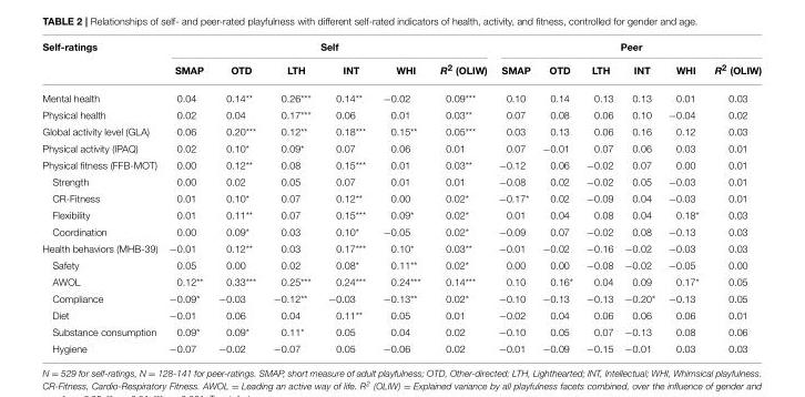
<table><thead><tr><td rowspan="2">Self-ratings</td><td colspan="6">Self</td><td colspan="6">Peer</td></tr><tr><td>SMAP</td><td>OTD</td><td>LTH</td><td>INT</td><td>WHI</td><td>R<sup>2</sup> (OLIW)</td><td>SMAP</td><td>OTD</td><td>LTH</td><td>INT</td><td>WHI</td><td>R<sup>2</sup> (OLIW)</td></tr></thead><tbody><tr><td>Mental health</td><td>0.04</td><td>0.14**</td><td>0.26***</td><td>0.14**</td><td>−0.02</td><td>0.09***</td><td>0.10</td><td>0.14</td><td>0.13</td><td>0.13</td><td>0.01</td><td>0.03</td></tr><tr><td>Physical health</td><td>0.02</td><td>0.04</td><td>0.17***</td><td>0.06</td><td>0.01</td><td>0.03**</td><td>0.07</td><td>0.08</td><td>0.06</td><td>0.10</td><td>−0.04</td><td>0.02</td></tr><tr><td>Global activity level (GLA)</td><td>0.06</td><td>0.20***</td><td>0.12**</td><td>0.18***</td><td>0.15**</td><td>0.05***</td><td>0.03</td><td>0.13</td><td>0.06</td><td>0.16</td><td>0.12</td><td>0.03</td></tr><tr><td>Physical activity (IPAQ)</td><td>0.02</td><td>0.10*</td><td>0.09*</td><td>0.07</td><td>0.06</td><td>0.01</td><td>0.07</td><td>−0.01</td><td>0.07</td><td>0.06</td><td>0.03</td><td>0.01</td></tr><tr><td>Physical fitness (FFB-MOT)</td><td>0.00</td><td>0.12**</td><td>0.08</td><td>0.15***</td><td>0.01</td><td>0.03**</td><td>−0.12</td><td>0.06</td><td>−0.02</td><td>0.07</td><td>0.00</td><td>0.01</td></tr><tr><td>Strength</td><td>0.00</td><td>0.02</td><td>0.05</td><td>0.07</td><td>0.01</td><td>0.01</td><td>−0.08</td><td>0.02</td><td>−0.02</td><td>0.05</td><td>−0.03</td><td>0.01</td></tr><tr><td>CR-Fitness</td><td>0.01</td><td>0.10*</td><td>0.07</td><td>0.12**</td><td>0.00</td><td>0.02*</td><td>−0.17*</td><td>0.02</td><td>−0.09</td><td>0.04</td><td>−0.03</td><td>0.01</td></tr><tr><td>Flexibility</td><td>0.01</td><td>0.11**</td><td>0.07</td><td>0.15***</td><td>0.09*</td><td>0.02*</td><td>0.01</td><td>0.04</td><td>0.08</td><td>0.04</td><td>0.18*</td><td>0.03</td></tr><tr><td>Coordination</td><td>0.00</td><td>0.09*</td><td>0.03</td><td>0.10*</td><td>−0.05</td><td>0.02*</td><td>−0.09</td><td>0.07</td><td>−0.02</td><td>0.08</td><td>−0.13</td><td>0.03</td></tr><tr><td>Health behaviors (MHB-39)</td><td>−0.01</td><td>0.12**</td><td>0.03</td><td>0.17***</td><td>0.10*</td><td>0.03**</td><td>−0.01</td><td>−0.02</td><td>−0.16</td><td>−0.02</td><td>−0.03</td><td>0.03</td></tr><tr><td>Safety</td><td>0.05</td><td>0.00</td><td>0.02</td><td>0.08*</td><td>0.11**</td><td>0.02*</td><td>0.00</td><td>0.00</td><td>−0.08</td><td>−0.02</td><td>−0.05</td><td>0.00</td></tr><tr><td>AWOL</td><td>0.12**</td><td>0.33***</td><td>0.25***</td><td>0.24***</td><td>0.24***</td><td>0.14***</td><td>0.10</td><td>0.16*</td><td>0.04</td><td>0.09</td><td>0.17*</td><td>0.05</td></tr><tr><td>Compliance</td><td>−0.09*</td><td>−0.03</td><td>−0.12**</td><td>−0.03</td><td>−0.13**</td><td>0.02*</td><td>−0.10</td><td>−0.13</td><td>−0.13</td><td>−0.20*</td><td>−0.13</td><td>0.05</td></tr><tr><td>Diet</td><td>−0.01</td><td>0.06</td><td>0.04</td><td>0.11**</td><td>0.05</td><td>0.01</td><td>−0.02</td><td>0.04</td><td>0.06</td><td>0.06</td><td>0.06</td><td>0.01</td></tr><tr><td>Substance consumption</td><td>0.09*</td><td>0.09*</td><td>0.11*</td><td>0.05</td><td>0.04</td><td>0.02</td><td>−0.10</td><td>0.05</td><td>0.07</td><td>−0.13</td><td>0.08</td><td>0.06</td></tr><tr><td>Hygiene</td><td>−0.07</td><td>−0.02</td><td>−0.07</td><td>0.05</td><td>−0.06</td><td>0.02</td><td>−0.01</td><td>−0.09</td><td>−0.15</td><td>−0.01</td><td>0.03</td><td>0.03</td></tr></tbody></table>